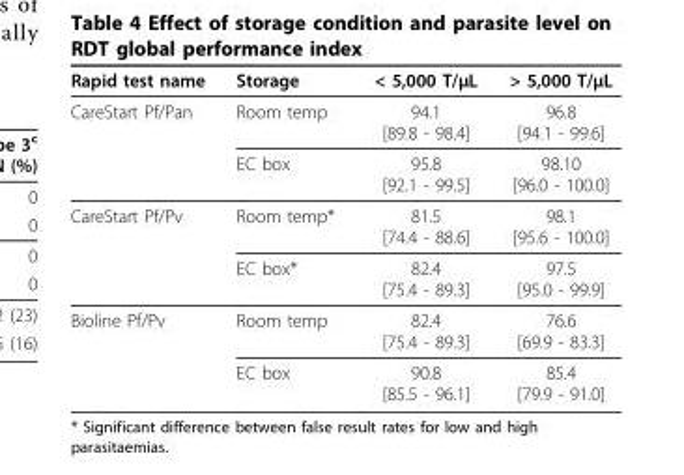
<table><thead><tr><td>Rapid test name</td><td>Storage</td><td>&lt; 5,000 T/μL</td><td>&gt; 5,000 T/μL</td></tr></thead><tbody><tr><td rowspan="2">CareStart Pf/Pan</td><td>Room temp</td><td>94.1 [89.8 - 98.4]</td><td>96.8 [94.1 - 99.6]</td></tr><tr><td>EC box</td><td>95.8 [92.1 - 99.5]</td><td>98.10 [96.0 - 100.0]</td></tr><tr><td rowspan="2">CareStart Pf/Pv</td><td>Room temp*</td><td>81.5 [74.4 - 88.6]</td><td>98.1 [95.6 - 100.0]</td></tr><tr><td>EC box*</td><td>82.4 [75.4 - 89.3]</td><td>97.5 [95.0 - 99.9]</td></tr><tr><td rowspan="2">Bioline Pf/Pv</td><td>Room temp</td><td>82.4 [75.4 - 89.3]</td><td>76.6 [69.9 - 83.3]</td></tr><tr><td>EC box</td><td>90.8 [85.5 - 96.1]</td><td>85.4 [79.9 - 91.0]</td></tr></tbody></table>